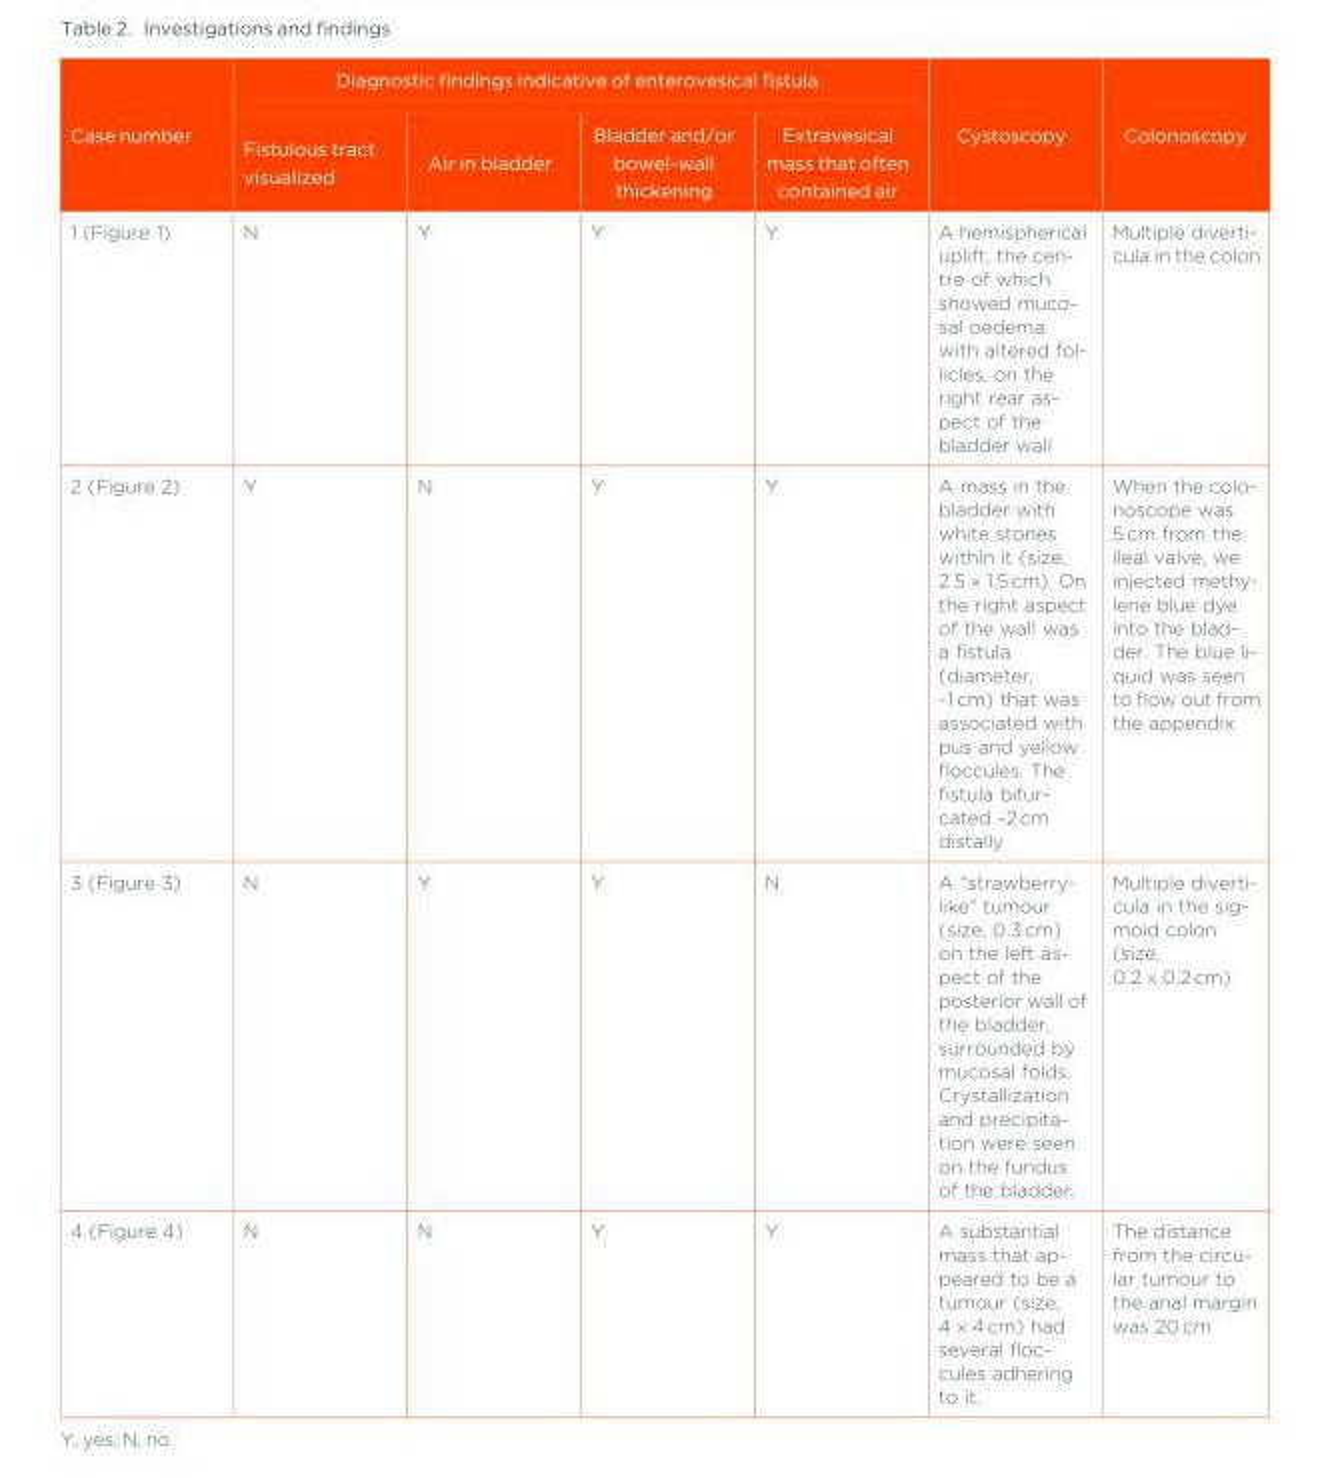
<table><thead><tr><td rowspan="2">Case number</td><td colspan="4">Diagnostic findings indicative of enterovesical fistula</td><td rowspan="2">Cystoscopy</td><td rowspan="2">Colonoscopy</td></tr><tr><td>Fistulous tract visualized</td><td>Air in bladder</td><td>Bladder and/or bowel-wall thickening</td><td>Extravesical mass that often contained air</td></tr></thead><tbody><tr><td>1 (Figure 1)</td><td>N</td><td>Y</td><td>Y</td><td>Y</td><td>A hemispherical uplift, the cen- tre of which showed muco- sal oedema with altered fol- licles, on the right rear as- pect of the bladder wall</td><td>Multiple diverti- cula in the colon</td></tr><tr><td>2 (Figure 2)</td><td>Y</td><td>N</td><td>Y</td><td>Y</td><td>A mass in the bladder with white stones within it (size, 2.5 � 1.5 cm). On the right aspect of the wall was a fistula (diameter, ~1 cm) that was associated with pus and yellow floccules. The fistula bifur- cated ~2 cm distally</td><td>When the colo- noscope was 5 cm from the ileal valve, we injected methy- lene blue dye into the blad- der. The blue li- quid was seen to flow out from the appendix</td></tr><tr><td>3 (Figure 3)</td><td>N</td><td>Y</td><td>Y</td><td>N</td><td>A “strawberry- like” tumour (size, 0.3 cm) on the left as- pect of the posterior wall of the bladder, surrounded by mucosal folds. Crystallization and precipita- tion were seen on the fundus of the bladder.</td><td>Multiple diverti- cula in the sig- moid colon (size, 0.2 � 0.2 cm)</td></tr><tr><td>4 (Figure 4)</td><td>N</td><td>N</td><td>Y</td><td>Y</td><td>A substantial mass that ap- peared to be a tumour (size, 4 � 4 cm) had several floc- cules adhering to it.</td><td>The distance from the circu- lar tumour to the anal margin was 20 cm</td></tr></tbody></table>